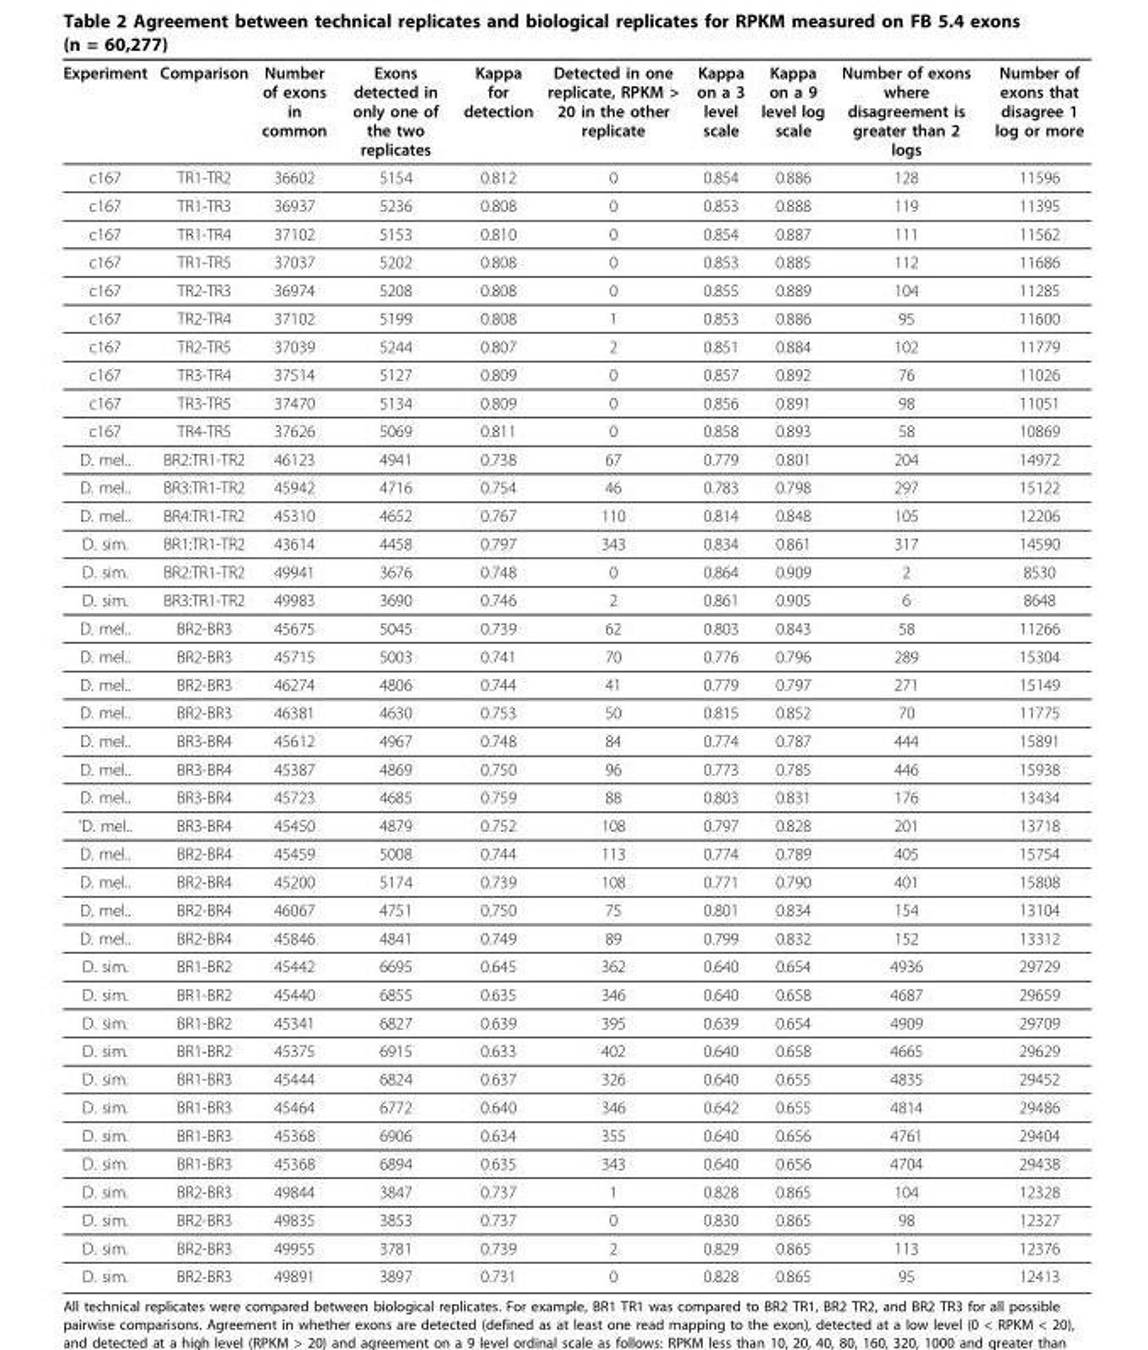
<table><thead><tr><td>Experiment</td><td>Comparison</td><td>Number of exons in common</td><td>Exons detected in only one of the two replicates</td><td>Kappa for detection</td><td>Detected in one replicate, RPKM &gt; 20 in the other replicate</td><td>Kappa on a 3 level scale</td><td>Kappa on a 9 level log scale</td><td>Number of exons where disagreement is greater than 2 logs</td><td>Number of exons that disagree 1 log or more</td></tr></thead><tbody><tr><td>c167</td><td>TR1-TR2</td><td>36602</td><td>5154</td><td>0.812</td><td>0</td><td>0.854</td><td>0.886</td><td>128</td><td>11596</td></tr><tr><td>c167</td><td>TR1-TR3</td><td>36937</td><td>5236</td><td>0.808</td><td>0</td><td>0.853</td><td>0.888</td><td>119</td><td>11395</td></tr><tr><td>c167</td><td>TR1-TR4</td><td>37102</td><td>5153</td><td>0.810</td><td>0</td><td>0.854</td><td>0.887</td><td>111</td><td>11562</td></tr><tr><td>c167</td><td>TR1-TR5</td><td>37037</td><td>5202</td><td>0.808</td><td>0</td><td>0.853</td><td>0.885</td><td>112</td><td>11686</td></tr><tr><td>c167</td><td>TR2-TR3</td><td>36974</td><td>5208</td><td>0.808</td><td>0</td><td>0.855</td><td>0.889</td><td>104</td><td>11285</td></tr><tr><td>c167</td><td>TR2-TR4</td><td>37102</td><td>5199</td><td>0.808</td><td>1</td><td>0.853</td><td>0.886</td><td>95</td><td>11600</td></tr><tr><td>c167</td><td>TR2-TR5</td><td>37039</td><td>5244</td><td>0.807</td><td>2</td><td>0.851</td><td>0.884</td><td>102</td><td>11779</td></tr><tr><td>c167</td><td>TR3-TR4</td><td>37514</td><td>5127</td><td>0.809</td><td>0</td><td>0.857</td><td>0.892</td><td>76</td><td>11026</td></tr><tr><td>c167</td><td>TR3-TR5</td><td>37470</td><td>5134</td><td>0.809</td><td>0</td><td>0.856</td><td>0.891</td><td>98</td><td>11051</td></tr><tr><td>c167</td><td>TR4-TR5</td><td>37626</td><td>5069</td><td>0.811</td><td>0</td><td>0.858</td><td>0.893</td><td>58</td><td>10869</td></tr><tr><td>D. mel..</td><td>BR2:TR1-TR2</td><td>46123</td><td>4941</td><td>0.738</td><td>67</td><td>0.779</td><td>0.801</td><td>204</td><td>14972</td></tr><tr><td>D. mel..</td><td>BR3:TR1-TR2</td><td>45942</td><td>4716</td><td>0.754</td><td>46</td><td>0.783</td><td>0.798</td><td>297</td><td>15122</td></tr><tr><td>D. mel..</td><td>BR4:TR1-TR2</td><td>45310</td><td>4652</td><td>0.767</td><td>110</td><td>0.814</td><td>0.848</td><td>105</td><td>12206</td></tr><tr><td>D. sim.</td><td>BR1:TR1-TR2</td><td>43614</td><td>4458</td><td>0.797</td><td>343</td><td>0.834</td><td>0.861</td><td>317</td><td>14590</td></tr><tr><td>D. sim.</td><td>BR2:TR1-TR2</td><td>49941</td><td>3676</td><td>0.748</td><td>0</td><td>0.864</td><td>0.909</td><td>2</td><td>8530</td></tr><tr><td>D. sim.</td><td>BR3:TR1-TR2</td><td>49983</td><td>3690</td><td>0.746</td><td>2</td><td>0.861</td><td>0.905</td><td>6</td><td>8648</td></tr><tr><td>D. mel..</td><td>BR2-BR3</td><td>45675</td><td>5045</td><td>0.739</td><td>62</td><td>0.803</td><td>0.843</td><td>58</td><td>11266</td></tr><tr><td>D. mel..</td><td>BR2-BR3</td><td>45715</td><td>5003</td><td>0.741</td><td>70</td><td>0.776</td><td>0.796</td><td>289</td><td>15304</td></tr><tr><td>D. mel..</td><td>BR2-BR3</td><td>46274</td><td>4806</td><td>0.744</td><td>41</td><td>0.779</td><td>0.797</td><td>271</td><td>15149</td></tr><tr><td>D. mel..</td><td>BR2-BR3</td><td>46381</td><td>4630</td><td>0.753</td><td>50</td><td>0.815</td><td>0.852</td><td>70</td><td>11775</td></tr><tr><td>D. mel..</td><td>BR3-BR4</td><td>45612</td><td>4967</td><td>0.748</td><td>84</td><td>0.774</td><td>0.787</td><td>444</td><td>15891</td></tr><tr><td>D. mel..</td><td>BR3-BR4</td><td>45387</td><td>4869</td><td>0.750</td><td>96</td><td>0.773</td><td>0.785</td><td>446</td><td>15938</td></tr><tr><td>D. mel..</td><td>BR3-BR4</td><td>45723</td><td>4685</td><td>0.759</td><td>88</td><td>0.803</td><td>0.831</td><td>176</td><td>13434</td></tr><tr><td>’D. mel..</td><td>BR3-BR4</td><td>45450</td><td>4879</td><td>0.752</td><td>108</td><td>0.797</td><td>0.828</td><td>201</td><td>13718</td></tr><tr><td>D. mel..</td><td>BR2-BR4</td><td>45459</td><td>5008</td><td>0.744</td><td>113</td><td>0.774</td><td>0.789</td><td>405</td><td>15754</td></tr><tr><td>D. mel..</td><td>BR2-BR4</td><td>45200</td><td>5174</td><td>0.739</td><td>108</td><td>0.771</td><td>0.790</td><td>401</td><td>15808</td></tr><tr><td>D. mel..</td><td>BR2-BR4</td><td>46067</td><td>4751</td><td>0.750</td><td>75</td><td>0.801</td><td>0.834</td><td>154</td><td>13104</td></tr><tr><td>D. mel..</td><td>BR2-BR4</td><td>45846</td><td>4841</td><td>0.749</td><td>89</td><td>0.799</td><td>0.832</td><td>152</td><td>13312</td></tr><tr><td>D. sim.</td><td>BR1-BR2</td><td>45442</td><td>6695</td><td>0.645</td><td>362</td><td>0.640</td><td>0.654</td><td>4936</td><td>29729</td></tr><tr><td>D. sim.</td><td>BR1-BR2</td><td>45440</td><td>6855</td><td>0.635</td><td>346</td><td>0.640</td><td>0.658</td><td>4687</td><td>29659</td></tr><tr><td>D. sim.</td><td>BR1-BR2</td><td>45341</td><td>6827</td><td>0.639</td><td>395</td><td>0.639</td><td>0.654</td><td>4909</td><td>29709</td></tr><tr><td>D. sim.</td><td>BR1-BR2</td><td>45375</td><td>6915</td><td>0.633</td><td>402</td><td>0.640</td><td>0.658</td><td>4665</td><td>29629</td></tr><tr><td>D. sim.</td><td>BR1-BR3</td><td>45444</td><td>6824</td><td>0.637</td><td>326</td><td>0.640</td><td>0.655</td><td>4835</td><td>29452</td></tr><tr><td>D. sim.</td><td>BR1-BR3</td><td>45464</td><td>6772</td><td>0.640</td><td>346</td><td>0.642</td><td>0.655</td><td>4814</td><td>29486</td></tr><tr><td>D. sim.</td><td>BR1-BR3</td><td>45368</td><td>6906</td><td>0.634</td><td>355</td><td>0.640</td><td>0.656</td><td>4761</td><td>29404</td></tr><tr><td>D. sim.</td><td>BR1-BR3</td><td>45368</td><td>6894</td><td>0.635</td><td>343</td><td>0.640</td><td>0.656</td><td>4704</td><td>29438</td></tr><tr><td>D. sim.</td><td>BR2-BR3</td><td>49844</td><td>3847</td><td>0.737</td><td>1</td><td>0.828</td><td>0.865</td><td>104</td><td>12328</td></tr><tr><td>D. sim.</td><td>BR2-BR3</td><td>49835</td><td>3853</td><td>0.737</td><td>0</td><td>0.830</td><td>0.865</td><td>98</td><td>12327</td></tr><tr><td>D. sim.</td><td>BR2-BR3</td><td>49955</td><td>3781</td><td>0.739</td><td>2</td><td>0.829</td><td>0.865</td><td>113</td><td>12376</td></tr><tr><td>D. sim.</td><td>BR2-BR3</td><td>49891</td><td>3897</td><td>0.731</td><td>0</td><td>0.828</td><td>0.865</td><td>95</td><td>12413</td></tr></tbody></table>